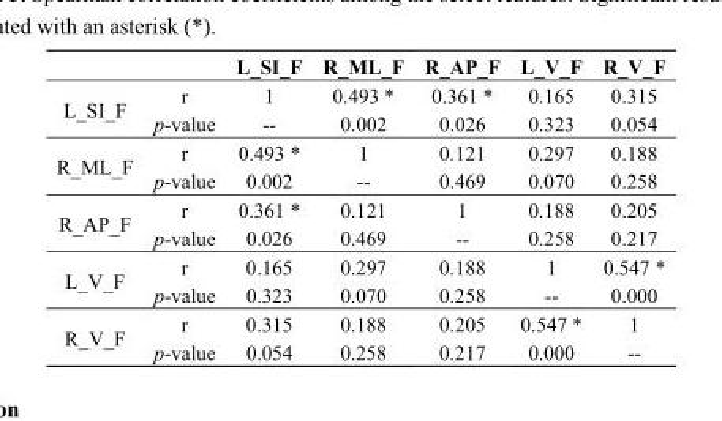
<table><thead><tr><td></td><td></td><td>L_SI_F</td><td>R_ML_F</td><td>R_AP_F</td><td>L_V_F</td><td>R_V_F</td></tr></thead><tbody><tr><td rowspan="2">L_SI_F</td><td>r</td><td>1</td><td>0.493 *</td><td>0.361 *</td><td>0.165</td><td>0.315</td></tr><tr><td>p-value</td><td>--</td><td>0.002</td><td>0.026</td><td>0.323</td><td>0.054</td></tr><tr><td rowspan="2">R_ML_F</td><td>r</td><td>0.493 *</td><td>1</td><td>0.121</td><td>0.297</td><td>0.188</td></tr><tr><td>p-value</td><td>0.002</td><td>--</td><td>0.469</td><td>0.070</td><td>0.258</td></tr><tr><td rowspan="2">R_AP_F</td><td>r</td><td>0.361 *</td><td>0.121</td><td>1</td><td>0.188</td><td>0.205</td></tr><tr><td>p-value</td><td>0.026</td><td>0.469</td><td>--</td><td>0.258</td><td>0.217</td></tr><tr><td rowspan="2">L_V_F</td><td>r</td><td>0.165</td><td>0.297</td><td>0.188</td><td>1</td><td>0.547 *</td></tr><tr><td>p-value</td><td>0.323</td><td>0.070</td><td>0.258</td><td>--</td><td>0.000</td></tr><tr><td rowspan="2">R_V_F</td><td>r</td><td>0.315</td><td>0.188</td><td>0.205</td><td>0.547 *</td><td>1</td></tr><tr><td>p-value</td><td>0.054</td><td>0.258</td><td>0.217</td><td>0.000</td><td>--</td></tr></tbody></table>